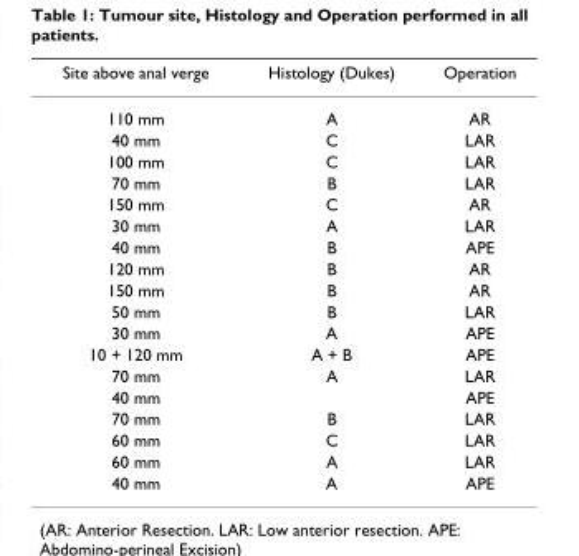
<table><thead><tr><td>Site above anal verge</td><td>Histology (Dukes)</td><td>Operation</td></tr></thead><tbody><tr><td>110 mm</td><td>A</td><td>AR</td></tr><tr><td>40 mm</td><td>C</td><td>LAR</td></tr><tr><td>100 mm</td><td>C</td><td>LAR</td></tr><tr><td>70 mm</td><td>B</td><td>LAR</td></tr><tr><td>150 mm</td><td>C</td><td>AR</td></tr><tr><td>30 mm</td><td>A</td><td>LAR</td></tr><tr><td>40 mm</td><td>B</td><td>APE</td></tr><tr><td>120 mm</td><td>B</td><td>AR</td></tr><tr><td>150 mm</td><td>B</td><td>AR</td></tr><tr><td>50 mm</td><td>B</td><td>LAR</td></tr><tr><td>30 mm</td><td>A</td><td>APE</td></tr><tr><td>10 + 120 mm</td><td>A + B</td><td>APE</td></tr><tr><td>70 mm</td><td>A</td><td>LAR</td></tr><tr><td>40 mm</td><td></td><td>APE</td></tr><tr><td>70 mm</td><td>B</td><td>LAR</td></tr><tr><td>60 mm</td><td>C</td><td>LAR</td></tr><tr><td>60 mm</td><td>A</td><td>LAR</td></tr><tr><td>40 mm</td><td>A</td><td>APE</td></tr></tbody></table>